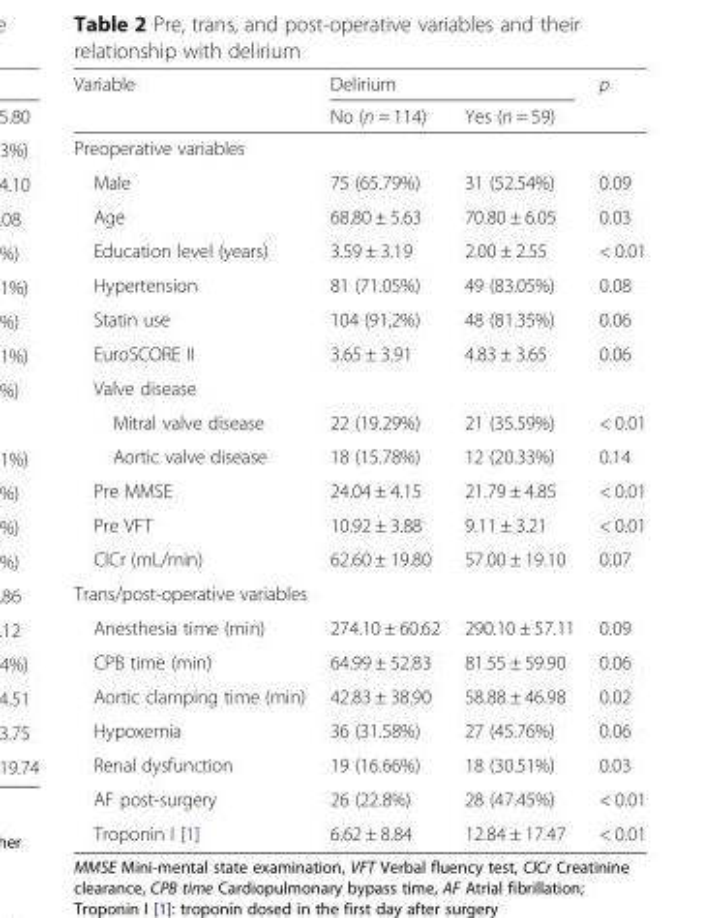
<table><thead><tr><td rowspan="2">Variable</td><td colspan="2">Delirium</td><td rowspan="2">p</td></tr><tr><td>No (n = 114)</td><td>Yes (n = 59)</td></tr></thead><tbody><tr><td colspan="4">Preoperative variables</td></tr><tr><td>Male</td><td>75 (65.79%)</td><td>31 (52.54%)</td><td>0.09</td></tr><tr><td>Age</td><td>68.80 ± 5.63</td><td>70.80 ± 6.05</td><td>0.03</td></tr><tr><td>Education level (years)</td><td>3.59 ± 3.19</td><td>2.00 ± 2.55</td><td>&lt; 0.01</td></tr><tr><td>Hypertension</td><td>81 (71.05%)</td><td>49 (83.05%)</td><td>0.08</td></tr><tr><td>Statin use</td><td>104 (91,2%)</td><td>48 (81.35%)</td><td>0.06</td></tr><tr><td>EuroSCORE II</td><td>3.65 ± 3.91</td><td>4.83 ± 3.65</td><td>0.06</td></tr><tr><td colspan="4">Valve disease</td></tr><tr><td>Mitral valve disease</td><td>22 (19.29%)</td><td>21 (35.59%)</td><td>&lt; 0.01</td></tr><tr><td>Aortic valve disease</td><td>18 (15.78%)</td><td>12 (20.33%)</td><td>0.14</td></tr><tr><td>Pre MMSE</td><td>24.04 ± 4.15</td><td>21.79 ± 4.85</td><td>&lt; 0.01</td></tr><tr><td>Pre VFT</td><td>10.92 ± 3.88</td><td>9.11 ± 3.21</td><td>&lt; 0.01</td></tr><tr><td>ClCr (mL/min)</td><td>62.60 ± 19.80</td><td>57.00 ± 19.10</td><td>0.07</td></tr><tr><td colspan="4">Trans/post-operative variables</td></tr><tr><td>Anesthesia time (min)</td><td>274.10 ± 60.62</td><td>290.10 ± 57.11</td><td>0.09</td></tr><tr><td>CPB time (min)</td><td>64.99 ± 52.83</td><td>81.55 ± 59.90</td><td>0.06</td></tr><tr><td>Aortic clamping time (min)</td><td>42.83 ± 38.90</td><td>58.88 ± 46.98</td><td>0.02</td></tr><tr><td>Hypoxemia</td><td>36 (31.58%)</td><td>27 (45.76%)</td><td>0.06</td></tr><tr><td>Renal dysfunction</td><td>19 (16.66%)</td><td>18 (30.51%)</td><td>0.03</td></tr><tr><td>AF post-surgery</td><td>26 (22.8%)</td><td>28 (47.45%)</td><td>&lt; 0.01</td></tr><tr><td>Troponin I [1]</td><td>6.62 ± 8.84</td><td>12.84 ± 17.47</td><td>&lt; 0.01</td></tr></tbody></table>